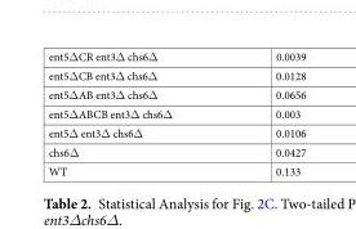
<table><tbody><tr><td>ent5ΔCR ent3Δ chs6Δ</td><td>0.0039</td></tr><tr><td>ent5ΔCB ent3Δ chs6Δ</td><td>0.0128</td></tr><tr><td>ent5ΔAB ent3Δ chs6Δ</td><td>0.0656</td></tr><tr><td>ent5ΔABCB ent3Δ chs6Δ</td><td>0.003</td></tr><tr><td>ent5Δ ent3Δ chs6Δ</td><td>0.0106</td></tr><tr><td>chs6Δ</td><td>0.0427</td></tr><tr><td>WT</td><td>0.133</td></tr></tbody></table>